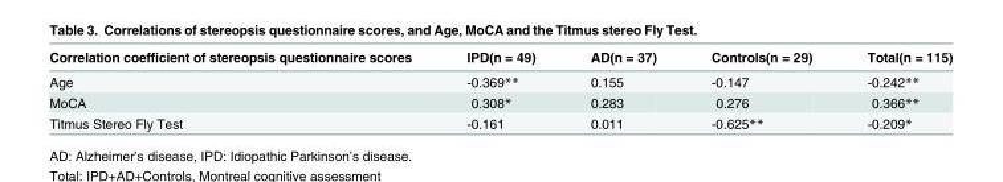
<table><thead><tr><td>Correlation coefficient of stereopsis questionnaire scores</td><td>IPD(n = 49)</td><td>AD(n = 37)</td><td>Controls(n = 29)</td><td>Total(n = 115)</td></tr></thead><tbody><tr><td>Age</td><td>-0.369**</td><td>0.155</td><td>-0.147</td><td>-0.242**</td></tr><tr><td>MoCA</td><td>0.308*</td><td>0.283</td><td>0.276</td><td>0.366**</td></tr><tr><td>Titmus Stereo Fly Test</td><td>-0.161</td><td>0.011</td><td>-0.625**</td><td>-0.209*</td></tr></tbody></table>